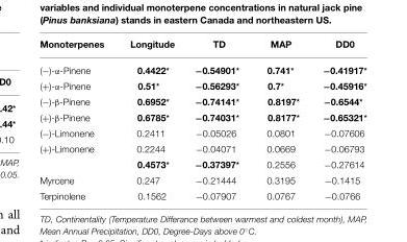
<table><thead><tr><td>Monoterpenes</td><td>Longitude</td><td>TD</td><td>MAP</td><td>DD0</td></tr></thead><tbody><tr><td>(−)-α-Pinene</td><td>0.4422*</td><td>−0.54901*</td><td>0.741*</td><td>−0.41917*</td></tr><tr><td>(+)-α-Pinene</td><td>0.51*</td><td>−0.56293*</td><td>0.7*</td><td>−0.45916*</td></tr><tr><td>(−)-β-Pinene</td><td>0.6952*</td><td>−0.74141*</td><td>0.8197*</td><td>−0.6544*</td></tr><tr><td>(+)-β-Pinene</td><td>0.6785*</td><td>−0.74031*</td><td>0.8177*</td><td>−0.65321*</td></tr><tr><td>(−)-Limonene</td><td>0.2411</td><td>−0.05026</td><td>0.0801</td><td>−0.07606</td></tr><tr><td rowspan="2">(+)-Limonene</td><td>0.2244</td><td>−0.04071</td><td>0.0669</td><td>−0.06793</td></tr><tr><td>0.4573*</td><td>−0.37397*</td><td>0.2556</td><td>−0.27614</td></tr><tr><td>Myrcene</td><td>0.247</td><td>−0.21444</td><td>0.3195</td><td>−0.1415</td></tr><tr><td>Terpinolene</td><td>0.1562</td><td>−0.07907</td><td>0.0767</td><td>−0.0766</td></tr></tbody></table>